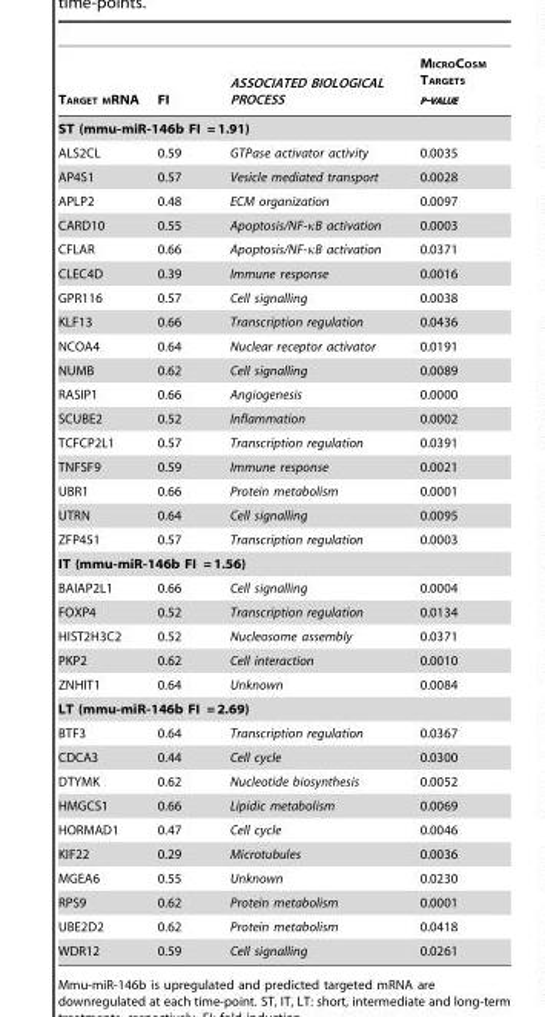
<table><thead><tr><td>TARGET MRNA</td><td>FI</td><td>ASSOCIATED BIOLOGICAL PROCESS</td><td>MICROCOSM TARGETS P-VALUE</td></tr></thead><tbody><tr><td colspan="4">ST (mmu-miR-146b FI = 1.91)</td></tr><tr><td>ALS2CL</td><td>0.59</td><td>GTPase activator activity</td><td>0.0035</td></tr><tr><td>AP4S1</td><td>0.57</td><td>Vesicle mediated transport</td><td>0.0028</td></tr><tr><td>APLP2</td><td>0.48</td><td>ECM organization</td><td>0.0097</td></tr><tr><td>CARD10</td><td>0.55</td><td>Apoptosis/NF-κB activation</td><td>0.0003</td></tr><tr><td>CFLAR</td><td>0.66</td><td>Apoptosis/NF-κB activation</td><td>0.0371</td></tr><tr><td>CLEC4D</td><td>0.39</td><td>Immune response</td><td>0.0016</td></tr><tr><td>GPR116</td><td>0.57</td><td>Cell signalling</td><td>0.0038</td></tr><tr><td>KLF13</td><td>0.66</td><td>Transcription regulation</td><td>0.0436</td></tr><tr><td>NCOA4</td><td>0.64</td><td>Nuclear receptor activator</td><td>0.0191</td></tr><tr><td>NUMB</td><td>0.62</td><td>Cell signalling</td><td>0.0089</td></tr><tr><td>RASIP1</td><td>0.66</td><td>Angiogenesis</td><td>0.0000</td></tr><tr><td>SCUBE2</td><td>0.52</td><td>Inflammation</td><td>0.0002</td></tr><tr><td>TCFCP2L1</td><td>0.57</td><td>Transcription regulation</td><td>0.0391</td></tr><tr><td>TNFSF9</td><td>0.59</td><td>Immune response</td><td>0.0021</td></tr><tr><td>UBR1</td><td>0.66</td><td>Protein metabolism</td><td>0.0001</td></tr><tr><td>UTRN</td><td>0.64</td><td>Cell signalling</td><td>0.0095</td></tr><tr><td>ZFP451</td><td>0.57</td><td>Transcription regulation</td><td>0.0003</td></tr><tr><td colspan="4">IT (mmu-miR-146b FI = 1.56)</td></tr><tr><td>BAIAP2L1</td><td>0.66</td><td>Cell signalling</td><td>0.0004</td></tr><tr><td>FOXP4</td><td>0.52</td><td>Transcription regulation</td><td>0.0134</td></tr><tr><td>HIST2H3C2</td><td>0.52</td><td>Nucleosome assembly</td><td>0.0371</td></tr><tr><td>PKP2</td><td>0.62</td><td>Cell interaction</td><td>0.0010</td></tr><tr><td>ZNHIT1</td><td>0.64</td><td>Unknown</td><td>0.0084</td></tr><tr><td colspan="4">LT (mmu-miR-146b FI = 2.69)</td></tr><tr><td>BTF3</td><td>0.64</td><td>Transcription regulation</td><td>0.0367</td></tr><tr><td>CDCA3</td><td>0.44</td><td>Cell cycle</td><td>0.0300</td></tr><tr><td>DTYMK</td><td>0.62</td><td>Nucleotide biosynthesis</td><td>0.0052</td></tr><tr><td>HMGCS1</td><td>0.66</td><td>Lipidic metabolism</td><td>0.0069</td></tr><tr><td>HORMAD1</td><td>0.47</td><td>Cell cycle</td><td>0.0046</td></tr><tr><td>KIF22</td><td>0.29</td><td>Microtubules</td><td>0.0036</td></tr><tr><td>MGEA6</td><td>0.55</td><td>Unknown</td><td>0.0230</td></tr><tr><td>RPS9</td><td>0.62</td><td>Protein metabolism</td><td>0.0001</td></tr><tr><td>UBE2D2</td><td>0.62</td><td>Protein metabolism</td><td>0.0418</td></tr><tr><td>WDR12</td><td>0.59</td><td>Cell signalling</td><td>0.0261</td></tr></tbody></table>